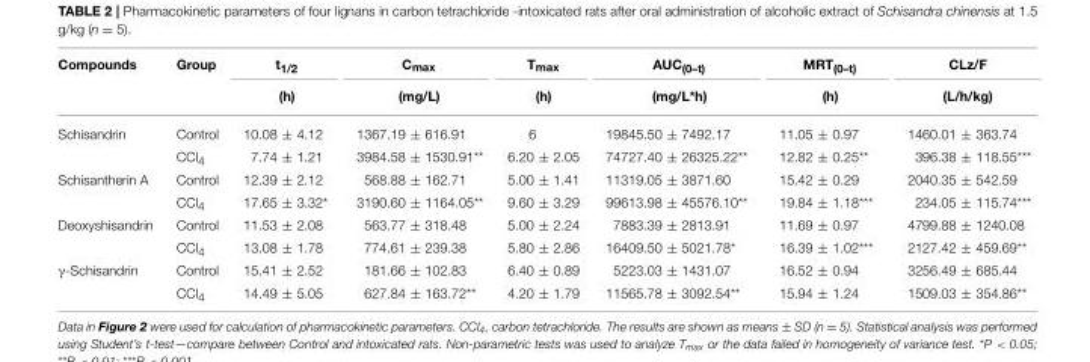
<table><thead><tr><td rowspan="2">Compounds</td><td rowspan="2">Group</td><td rowspan="2">t<sub>1/2</sub> (h)</td><td rowspan="2">C<sub>max</sub> (mg/L)</td><td rowspan="2">T<sub>max</sub> (h)</td><td rowspan="2">AUC<sub>(0–t)</sub> (mg/L*h)</td><td rowspan="2">MRT<sub>(0–t)</sub> (h)</td><td rowspan="2">CLz/F (L/h/kg)</td></tr><tr></tr></thead><tbody><tr><td rowspan="2">Schisandrin</td><td>Control</td><td>10.08 ± 4.12</td><td>1367.19 ± 616.91</td><td>6</td><td>19845.50 ± 7492.17</td><td>11.05 ± 0.97</td><td>1460.01 ± 363.74</td></tr><tr><td>CCl<sub>4</sub></td><td>7.74 ± 1.21</td><td>3984.58 ± 1530.91**</td><td>6.20 ± 2.05</td><td>74727.40 ± 26325.22**</td><td>12.82 ± 0.25**</td><td>396.38 ± 118.55***</td></tr><tr><td rowspan="2">Schisantherin A</td><td>Control</td><td>12.39 ± 2.12</td><td>568.88 ± 162.71</td><td>5.00 ± 1.41</td><td>11319.05 ± 3871.60</td><td>15.42 ± 0.29</td><td>2040.35 ± 542.59</td></tr><tr><td>CCl<sub>4</sub></td><td>17.65 ± 3.32*</td><td>3190.60 ± 1164.05**</td><td>9.60 ± 3.29</td><td>99613.98 ± 45576.10**</td><td>19.84 ± 1.18***</td><td>234.05 ± 115.74***</td></tr><tr><td rowspan="2">Deoxyshisandrin</td><td>Control</td><td>11.53 ± 2.08</td><td>563.77 ± 318.48</td><td>5.00 ± 2.24</td><td>7883.39 ± 2813.91</td><td>11.69 ± 0.97</td><td>4799.88 ± 1240.08</td></tr><tr><td>CCl<sub>4</sub></td><td>13.08 ± 1.78</td><td>774.61 ± 239.38</td><td>5.80 ± 2.86</td><td>16409.50 ± 5021.78*</td><td>16.39 ± 1.02***</td><td>2127.42 ± 459.69**</td></tr><tr><td rowspan="2">γ-Schisandrin</td><td>Control</td><td>15.41 ± 2.52</td><td>181.66 ± 102.83</td><td>6.40 ± 0.89</td><td>5223.03 ± 1431.07</td><td>16.52 ± 0.94</td><td>3256.49 ± 685.44</td></tr><tr><td>CCl<sub>4</sub></td><td>14.49 ± 5.05</td><td>627.84 ± 163.72**</td><td>4.20 ± 1.79</td><td>11565.78 ± 3092.54**</td><td>15.94 ± 1.24</td><td>1509.03 ± 354.86**</td></tr></tbody></table>